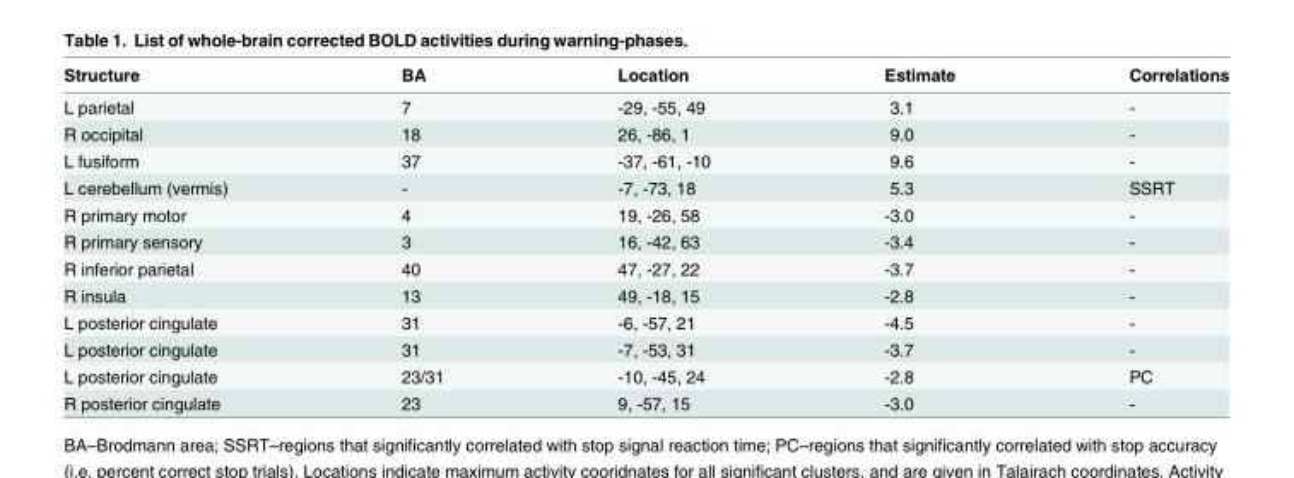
<table><thead><tr><td>Structure</td><td>BA</td><td>Location</td><td>Estimate</td><td>Correlations</td></tr></thead><tbody><tr><td>L parietal</td><td>7</td><td>-29, -55, 49</td><td>3.1</td><td>-</td></tr><tr><td>R occipital</td><td>18</td><td>26, -86, 1</td><td>9.0</td><td>-</td></tr><tr><td>L fusiform</td><td>37</td><td>-37, -61, -10</td><td>9.6</td><td>-</td></tr><tr><td>L cerebellum (vermis)</td><td>-</td><td>-7, -73, 18</td><td>5.3</td><td>SSRT</td></tr><tr><td>R primary motor</td><td>4</td><td>19, -26, 58</td><td>-3.0</td><td>-</td></tr><tr><td>R primary sensory</td><td>3</td><td>16, -42, 63</td><td>-3.4</td><td>-</td></tr><tr><td>R inferior parietal</td><td>40</td><td>47, -27, 22</td><td>-3.7</td><td>-</td></tr><tr><td>R insula</td><td>13</td><td>49, -18, 15</td><td>-2.8</td><td>-</td></tr><tr><td>L posterior cingulate</td><td>31</td><td>-6, -57, 21</td><td>-4.5</td><td>-</td></tr><tr><td>L posterior cingulate</td><td>31</td><td>-7, -53, 31</td><td>-3.7</td><td>-</td></tr><tr><td>L posterior cingulate</td><td>23/31</td><td>-10, -45, 24</td><td>-2.8</td><td>PC</td></tr><tr><td>R posterior cingulate</td><td>23</td><td>9, -57, 15</td><td>-3.0</td><td>-</td></tr></tbody></table>